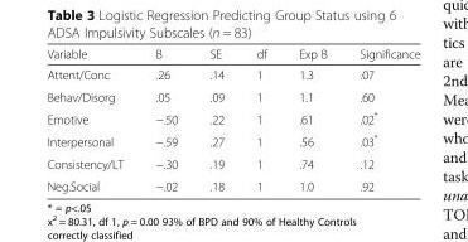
<table><thead><tr><td>Variable</td><td>B</td><td>SE</td><td>df</td><td>Exp B</td><td>Significance</td></tr></thead><tbody><tr><td>Attent/Conc</td><td>.26</td><td>.14</td><td>1</td><td>1.3</td><td>.07</td></tr><tr><td>Behav/Disorg</td><td>.05</td><td>.09</td><td>1</td><td>1.1</td><td>.60</td></tr><tr><td>Emotive</td><td>−.50</td><td>.22</td><td>1</td><td>.61</td><td>.02*</td></tr><tr><td>Interpersonal</td><td>−.59</td><td>.27</td><td>1</td><td>.56</td><td>.03*</td></tr><tr><td>Consistency/LT</td><td>−.30</td><td>.19</td><td>1</td><td>.74</td><td>.12</td></tr><tr><td>Neg.Social</td><td>−.02</td><td>.18</td><td>1</td><td>1.0</td><td>.92</td></tr></tbody></table>